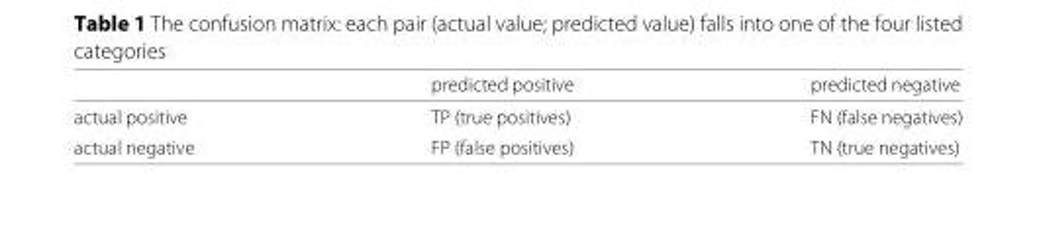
<table><thead><tr><td></td><td>predicted positive</td><td>predicted negative</td></tr></thead><tbody><tr><td>actual positive</td><td>TP (true positives)</td><td>FN (false negatives)</td></tr><tr><td>actual negative</td><td>FP (false positives)</td><td>TN (true negatives)</td></tr></tbody></table>